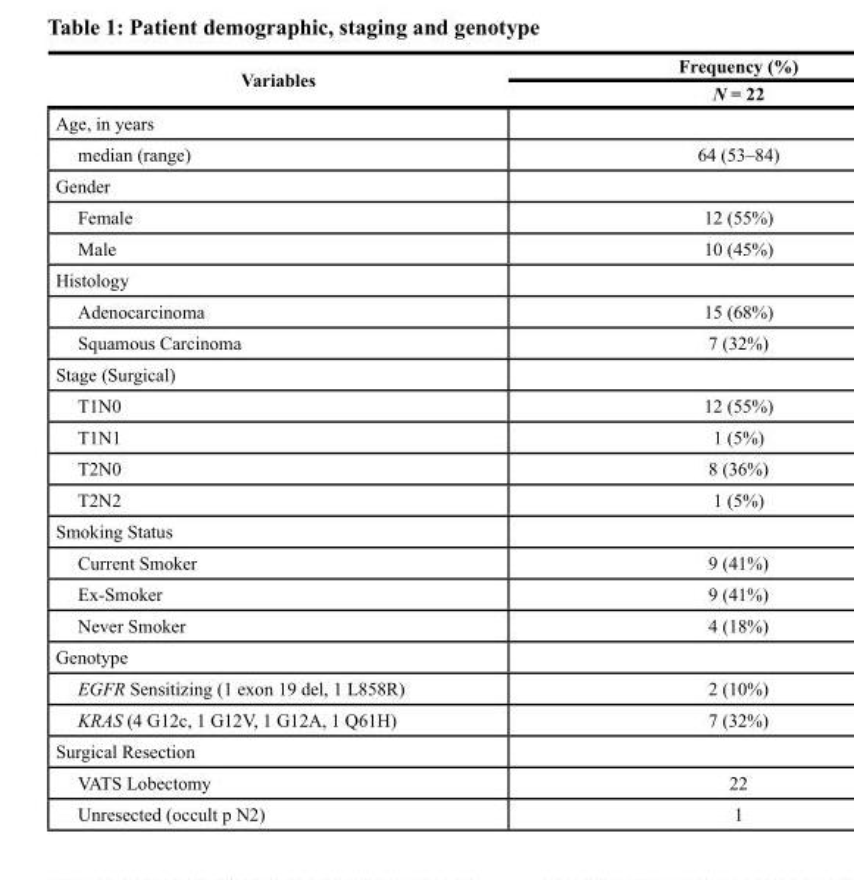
<table><thead><tr><td rowspan="2">Variables</td><td rowspan="2">Frequency (%) N = 22</td></tr><tr></tr></thead><tbody><tr><td colspan="2">Age, in years</td></tr><tr><td>median (range)</td><td>64 (53–84)</td></tr><tr><td colspan="2">Gender</td></tr><tr><td>Female</td><td>12 (55%)</td></tr><tr><td>Male</td><td>10 (45%)</td></tr><tr><td colspan="2">Histology</td></tr><tr><td>Adenocarcinoma</td><td>15 (68%)</td></tr><tr><td>Squamous Carcinoma</td><td>7 (32%)</td></tr><tr><td colspan="2">Stage (Surgical)</td></tr><tr><td>T1N0</td><td>12 (55%)</td></tr><tr><td>T1N1</td><td>1 (5%)</td></tr><tr><td>T2N0</td><td>8 (36%)</td></tr><tr><td>T2N2</td><td>1 (5%)</td></tr><tr><td colspan="2">Smoking Status</td></tr><tr><td>Current Smoker</td><td>9 (41%)</td></tr><tr><td>Ex-Smoker</td><td>9 (41%)</td></tr><tr><td>Never Smoker</td><td>4 (18%)</td></tr><tr><td colspan="2">Genotype</td></tr><tr><td>EGFR Sensitizing (1 exon 19 del, 1 L858R)</td><td>2 (10%)</td></tr><tr><td>KRAS (4 G12c, 1 G12V, 1 G12A, 1 Q61H)</td><td>7 (32%)</td></tr><tr><td colspan="2">Surgical Resection</td></tr><tr><td>VATS Lobectomy</td><td>22</td></tr><tr><td>Unresected (occult p N2)</td><td>1</td></tr></tbody></table>